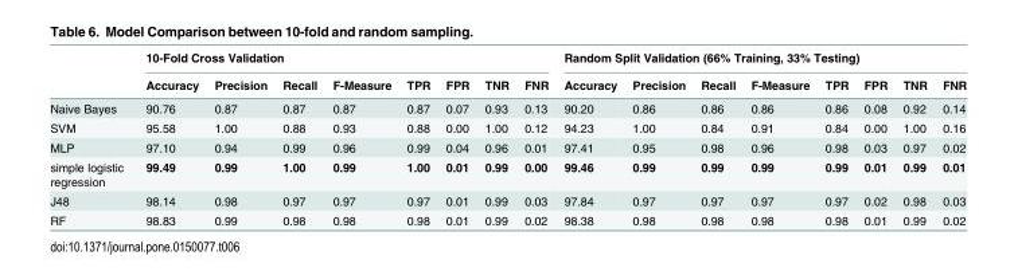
<table><thead><tr><td rowspan="2"></td><td colspan="8">10-Fold Cross Validation</td><td colspan="8">Random Split Validation (66% Training, 33% Testing)</td></tr><tr><td>Accuracy</td><td>Precision</td><td>Recall</td><td>F-Measure</td><td>TPR</td><td>FPR</td><td>TNR</td><td>FNR</td><td>Accuracy</td><td>Precision</td><td>Recall</td><td>F-Measure</td><td>TPR</td><td>FPR</td><td>TNR</td><td>FNR</td></tr></thead><tbody><tr><td>Naive Bayes</td><td>90.76</td><td>0.87</td><td>0.87</td><td>0.87</td><td>0.87</td><td>0.07</td><td>0.93</td><td>0.13</td><td>90.20</td><td>0.86</td><td>0.86</td><td>0.86</td><td>0.86</td><td>0.08</td><td>0.92</td><td>0.14</td></tr><tr><td>SVM</td><td>95.58</td><td>1.00</td><td>0.88</td><td>0.93</td><td>0.88</td><td>0.00</td><td>1.00</td><td>0.12</td><td>94.23</td><td>1.00</td><td>0.84</td><td>0.91</td><td>0.84</td><td>0.00</td><td>1.00</td><td>0.16</td></tr><tr><td>MLP</td><td>97.10</td><td>0.94</td><td>0.99</td><td>0.96</td><td>0.99</td><td>0.04</td><td>0.96</td><td>0.01</td><td>97.41</td><td>0.95</td><td>0.98</td><td>0.96</td><td>0.98</td><td>0.03</td><td>0.97</td><td>0.02</td></tr><tr><td>simple logistic regression</td><td>99.49</td><td>0.99</td><td>1.00</td><td>0.99</td><td>1.00</td><td>0.01</td><td>0.99</td><td>0.00</td><td>99.46</td><td>0.99</td><td>0.99</td><td>0.99</td><td>0.99</td><td>0.01</td><td>0.99</td><td>0.01</td></tr><tr><td>J48</td><td>98.14</td><td>0.98</td><td>0.97</td><td>0.97</td><td>0.97</td><td>0.01</td><td>0.99</td><td>0.03</td><td>97.84</td><td>0.97</td><td>0.97</td><td>0.97</td><td>0.97</td><td>0.02</td><td>0.98</td><td>0.03</td></tr><tr><td>RF</td><td>98.83</td><td>0.99</td><td>0.98</td><td>0.98</td><td>0.98</td><td>0.01</td><td>0.99</td><td>0.02</td><td>98.38</td><td>0.98</td><td>0.98</td><td>0.98</td><td>0.98</td><td>0.01</td><td>0.99</td><td>0.02</td></tr></tbody></table>